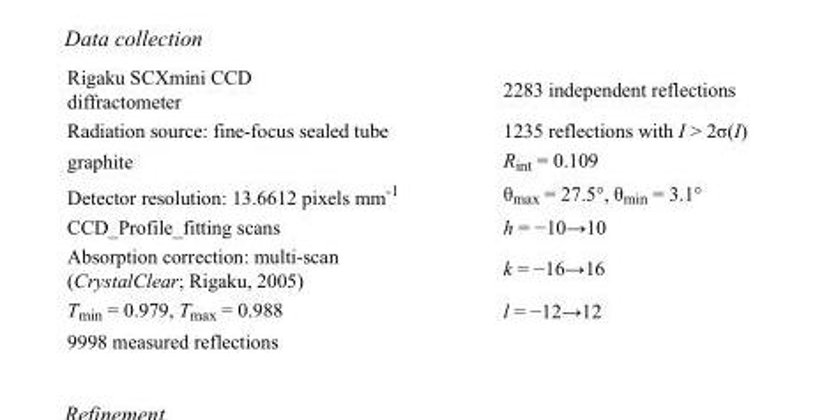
<table><tbody><tr><td>Rigaku SCXmini CCD diffractometer</td><td>2283 independent reflections</td></tr><tr><td>Radiation source: fine-focus sealed tube</td><td>1235 reflections with I &gt; 2σ(I)</td></tr><tr><td>graphite</td><td>R<sub>int</sub> = 0.109</td></tr><tr><td>Detector resolution: 13.6612 pixels mm<sup>-1</sup></td><td>θ<sub>max</sub> = 27.5°, θ<sub>min</sub> = 3.1°</td></tr><tr><td>CCD_Profile_fitting scans</td><td>h = −10→10</td></tr><tr><td>Absorption correction: multi-scan (CrystalClear; Rigaku, 2005)</td><td>k = −16→16</td></tr><tr><td>T<sub>min</sub> = 0.979, T<sub>max</sub> = 0.988</td><td>l = −12→12</td></tr><tr><td>9998 measured reflections</td><td></td></tr></tbody></table>